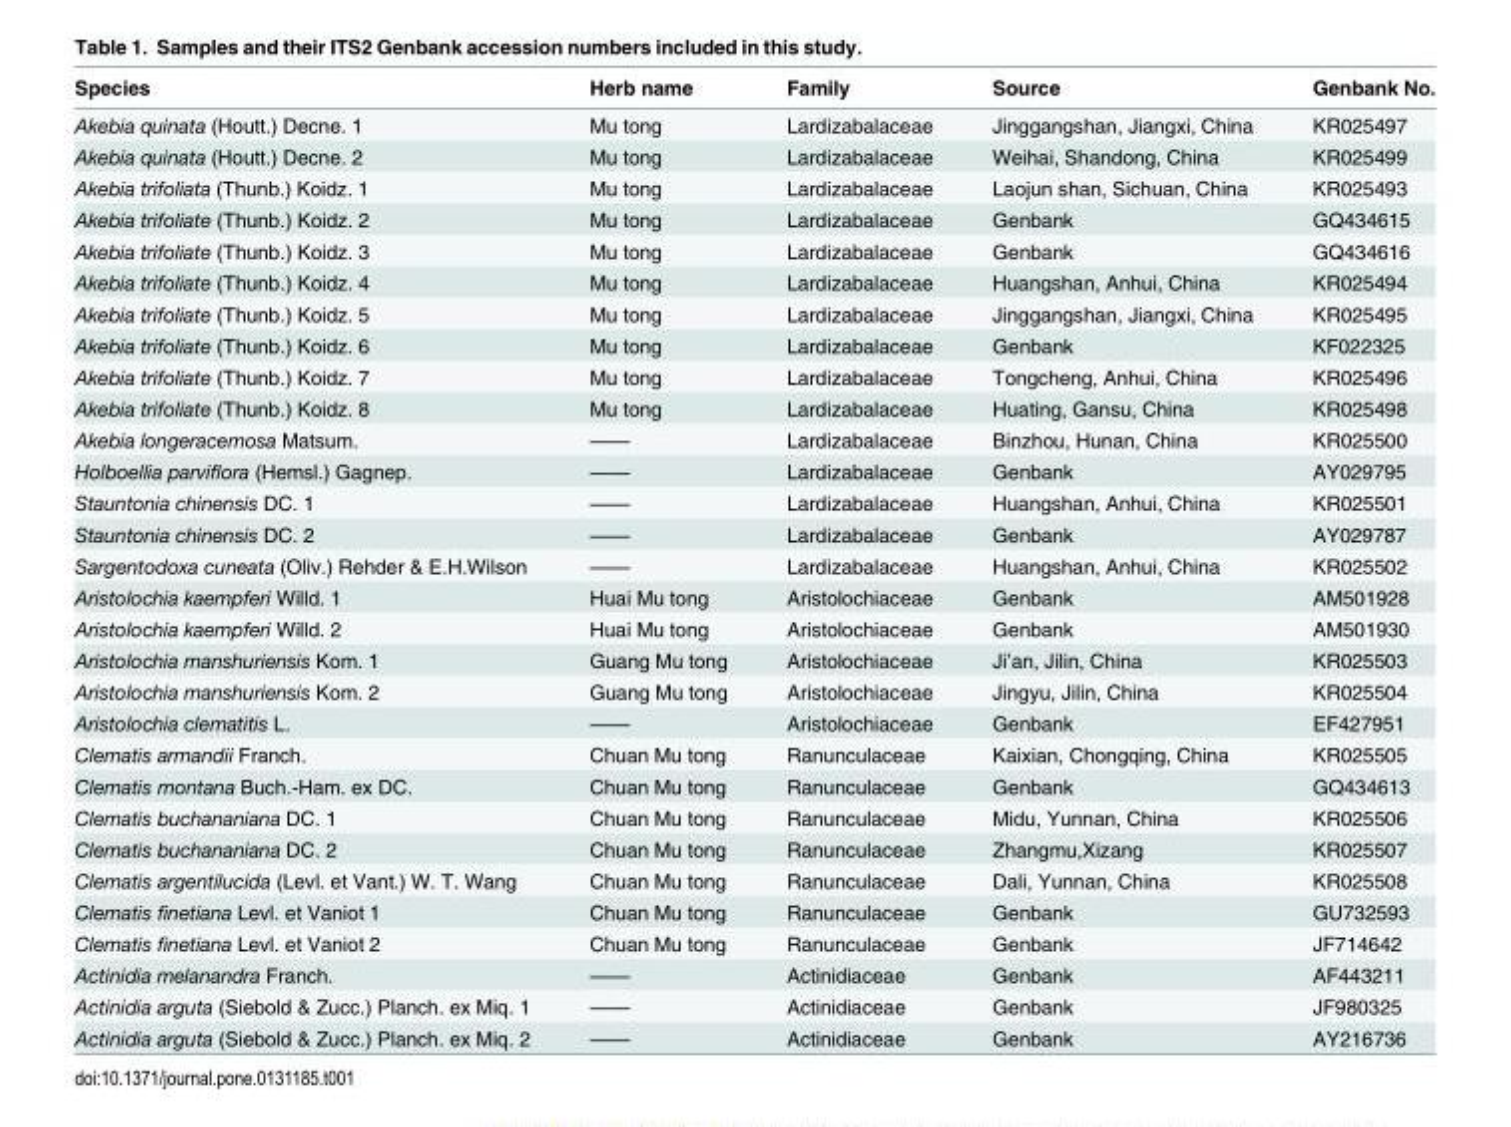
<table><thead><tr><td>Species</td><td>Herb name</td><td>Family</td><td>Source</td><td>Genbank No.</td></tr></thead><tbody><tr><td>Akebia quinata (Houtt.) Decne. 1</td><td>Mu tong</td><td>Lardizabalaceae</td><td>Jinggangshan, Jiangxi, China</td><td>KR025497</td></tr><tr><td>Akebia quinata (Houtt.) Decne. 2</td><td>Mu tong</td><td>Lardizabalaceae</td><td>Weihai, Shandong, China</td><td>KR025499</td></tr><tr><td>Akebia trifoliata (Thunb.) Koidz. 1</td><td>Mu tong</td><td>Lardizabalaceae</td><td>Laojun shan, Sichuan, China</td><td>KR025493</td></tr><tr><td>Akebia trifoliate (Thunb.) Koidz. 2</td><td>Mu tong</td><td>Lardizabalaceae</td><td>Genbank</td><td>GQ434615</td></tr><tr><td>Akebia trifoliate (Thunb.) Koidz. 3</td><td>Mu tong</td><td>Lardizabalaceae</td><td>Genbank</td><td>GQ434616</td></tr><tr><td>Akebia trifoliate (Thunb.) Koidz. 4</td><td>Mu tong</td><td>Lardizabalaceae</td><td>Huangshan, Anhui, China</td><td>KR025494</td></tr><tr><td>Akebia trifoliate (Thunb.) Koidz. 5</td><td>Mu tong</td><td>Lardizabalaceae</td><td>Jinggangshan, Jiangxi, China</td><td>KR025495</td></tr><tr><td>Akebia trifoliate (Thunb.) Koidz. 6</td><td>Mu tong</td><td>Lardizabalaceae</td><td>Genbank</td><td>KF022325</td></tr><tr><td>Akebia trifoliate (Thunb.) Koidz. 7</td><td>Mu tong</td><td>Lardizabalaceae</td><td>Tongcheng, Anhui, China</td><td>KR025496</td></tr><tr><td>Akebia trifoliate (Thunb.) Koidz. 8</td><td>Mu tong</td><td>Lardizabalaceae</td><td>Huating, Gansu, China</td><td>KR025498</td></tr><tr><td>Akebia longeracemosa Matsum.</td><td>——</td><td>Lardizabalaceae</td><td>Binzhou, Hunan, China</td><td>KR025500</td></tr><tr><td>Holboellia parviflora (Hemsl.) Gagnep.</td><td>——</td><td>Lardizabalaceae</td><td>Genbank</td><td>AY029795</td></tr><tr><td>Stauntonia chinensis DC. 1</td><td>——</td><td>Lardizabalaceae</td><td>Huangshan, Anhui, China</td><td>KR025501</td></tr><tr><td>Stauntonia chinensis DC. 2</td><td>——</td><td>Lardizabalaceae</td><td>Genbank</td><td>AY029787</td></tr><tr><td>Sargentodoxa cuneata (Oliv.) Rehder &amp; E.H.Wilson</td><td>——</td><td>Lardizabalaceae</td><td>Huangshan, Anhui, China</td><td>KR025502</td></tr><tr><td>Aristolochia kaempferi Willd. 1</td><td>Huai Mu tong</td><td>Aristolochiaceae</td><td>Genbank</td><td>AM501928</td></tr><tr><td>Aristolochia kaempferi Willd. 2</td><td>Huai Mu tong</td><td>Aristolochiaceae</td><td>Genbank</td><td>AM501930</td></tr><tr><td>Aristolochia manshuriensis Kom. 1</td><td>Guang Mu tong</td><td>Aristolochiaceae</td><td>Ji’an, Jilin, China</td><td>KR025503</td></tr><tr><td>Aristolochia manshuriensis Kom. 2</td><td>Guang Mu tong</td><td>Aristolochiaceae</td><td>Jingyu, Jilin, China</td><td>KR025504</td></tr><tr><td>Aristolochia clematitis L.</td><td>——</td><td>Aristolochiaceae</td><td>Genbank</td><td>EF427951</td></tr><tr><td>Clematis armandii Franch.</td><td>Chuan Mu tong</td><td>Ranunculaceae</td><td>Kaixian, Chongqing, China</td><td>KR025505</td></tr><tr><td>Clematis montana Buch.-Ham. ex DC.</td><td>Chuan Mu tong</td><td>Ranunculaceae</td><td>Genbank</td><td>GQ434613</td></tr><tr><td>Clematis buchananiana DC. 1</td><td>Chuan Mu tong</td><td>Ranunculaceae</td><td>Midu, Yunnan, China</td><td>KR025506</td></tr><tr><td>Clematis buchananiana DC. 2</td><td>Chuan Mu tong</td><td>Ranunculaceae</td><td>Zhangmu,Xizang</td><td>KR025507</td></tr><tr><td>Clematis argentilucida (Levl. et Vant.) W. T. Wang</td><td>Chuan Mu tong</td><td>Ranunculaceae</td><td>Dali, Yunnan, China</td><td>KR025508</td></tr><tr><td>Clematis finetiana Levl. et Vaniot 1</td><td>Chuan Mu tong</td><td>Ranunculaceae</td><td>Genbank</td><td>GU732593</td></tr><tr><td>Clematis finetiana Levl. et Vaniot 2</td><td>Chuan Mu tong</td><td>Ranunculaceae</td><td>Genbank</td><td>JF714642</td></tr><tr><td>Actinidia melanandra Franch.</td><td>——</td><td>Actinidiaceae</td><td>Genbank</td><td>AF443211</td></tr><tr><td>Actinidia arguta (Siebold &amp; Zucc.) Planch. ex Miq. 1</td><td>——</td><td>Actinidiaceae</td><td>Genbank</td><td>JF980325</td></tr><tr><td>Actinidia arguta (Siebold &amp; Zucc.) Planch. ex Miq. 2</td><td>——</td><td>Actinidiaceae</td><td>Genbank</td><td>AY216736</td></tr></tbody></table>